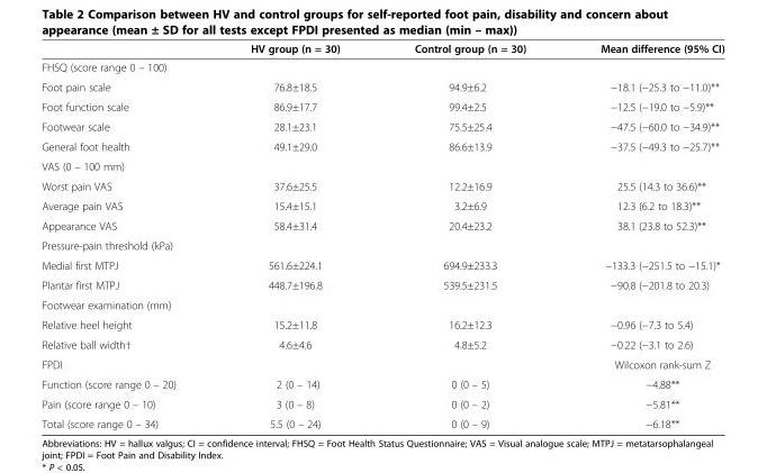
<table><thead><tr><td></td><td>HV group (n = 30)</td><td>Control group (n = 30)</td><td>Mean difference (95% CI)</td></tr></thead><tbody><tr><td colspan="4">FHSQ (score range 0 – 100)</td></tr><tr><td>Foot pain scale</td><td>76.8±18.5</td><td>94.9±6.2</td><td>−18.1 (−25.3 to −11.0)**</td></tr><tr><td>Foot function scale</td><td>86.9±17.7</td><td>99.4±2.5</td><td>−12.5 (−19.0 to −5.9)**</td></tr><tr><td>Footwear scale</td><td>28.1±23.1</td><td>75.5±25.4</td><td>−47.5 (−60.0 to −34.9)**</td></tr><tr><td>General foot health</td><td>49.1±29.0</td><td>86.6±13.9</td><td>−37.5 (−49.3 to −25.7)**</td></tr><tr><td colspan="4">VAS (0 – 100 mm)</td></tr><tr><td>Worst pain VAS</td><td>37.6±25.5</td><td>12.2±16.9</td><td>25.5 (14.3 to 36.6)**</td></tr><tr><td>Average pain VAS</td><td>15.4±15.1</td><td>3.2±6.9</td><td>12.3 (6.2 to 18.3)**</td></tr><tr><td>Appearance VAS</td><td>58.4±31.4</td><td>20.4±23.2</td><td>38.1 (23.8 to 52.3)**</td></tr><tr><td colspan="4">Pressure-pain threshold (kPa)</td></tr><tr><td>Medial first MTPJ</td><td>561.6±224.1</td><td>694.9±233.3</td><td>−133.3 (−251.5 to −15.1)*</td></tr><tr><td>Plantar first MTPJ</td><td>448.7±196.8</td><td>539.5±231.5</td><td>−90.8 (−201.8 to 20.3)</td></tr><tr><td colspan="4">Footwear examination (mm)</td></tr><tr><td>Relative heel height</td><td>15.2±11.8</td><td>16.2±12.3</td><td>−0.96 (−7.3 to 5.4)</td></tr><tr><td>Relative ball width†</td><td>4.6±4.6</td><td>4.8±5.2</td><td>−0.22 (−3.1 to 2.6)</td></tr><tr><td>FPDI</td><td></td><td></td><td>Wilcoxon rank-sum Z</td></tr><tr><td>Function (score range 0 – 20)</td><td>2 (0 – 14)</td><td>0 (0 – 5)</td><td>−4.88**</td></tr><tr><td>Pain (score range 0 – 10)</td><td>3 (0 – 8)</td><td>0 (0 – 2)</td><td>−5.81**</td></tr><tr><td>Total (score range 0 – 34)</td><td>5.5 (0 – 24)</td><td>0 (0 – 9)</td><td>−6.18**</td></tr></tbody></table>